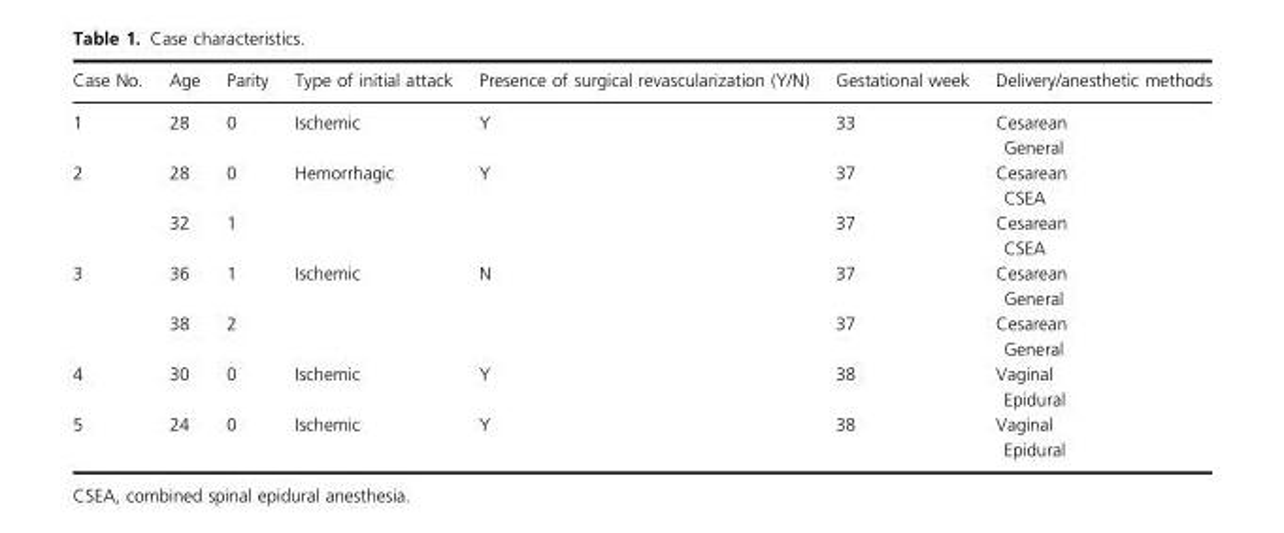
<table><thead><tr><td>Case No.</td><td>Age</td><td>Parity</td><td>Type of initial attack</td><td>Presence of surgical revascularization (Y/N)</td><td>Gestational week</td><td>Delivery/anesthetic methods</td></tr></thead><tbody><tr><td>1</td><td>28</td><td>0</td><td>Ischemic</td><td>Y</td><td>33</td><td>Cesarean General</td></tr><tr><td rowspan="2">2</td><td>28</td><td>0</td><td rowspan="2">Hemorrhagic</td><td rowspan="2">Y</td><td>37</td><td>Cesarean CSEA</td></tr><tr><td>32</td><td>1</td><td>37</td><td>Cesarean CSEA</td></tr><tr><td rowspan="2">3</td><td>36</td><td>1</td><td rowspan="2">Ischemic</td><td rowspan="2">N</td><td>37</td><td>Cesarean General</td></tr><tr><td>38</td><td>2</td><td>37</td><td>Cesarean General</td></tr><tr><td>4</td><td>30</td><td>0</td><td>Ischemic</td><td>Y</td><td>38</td><td>Vaginal Epidural</td></tr><tr><td>5</td><td>24</td><td>0</td><td>Ischemic</td><td>Y</td><td>38</td><td>Vaginal Epidural</td></tr></tbody></table>